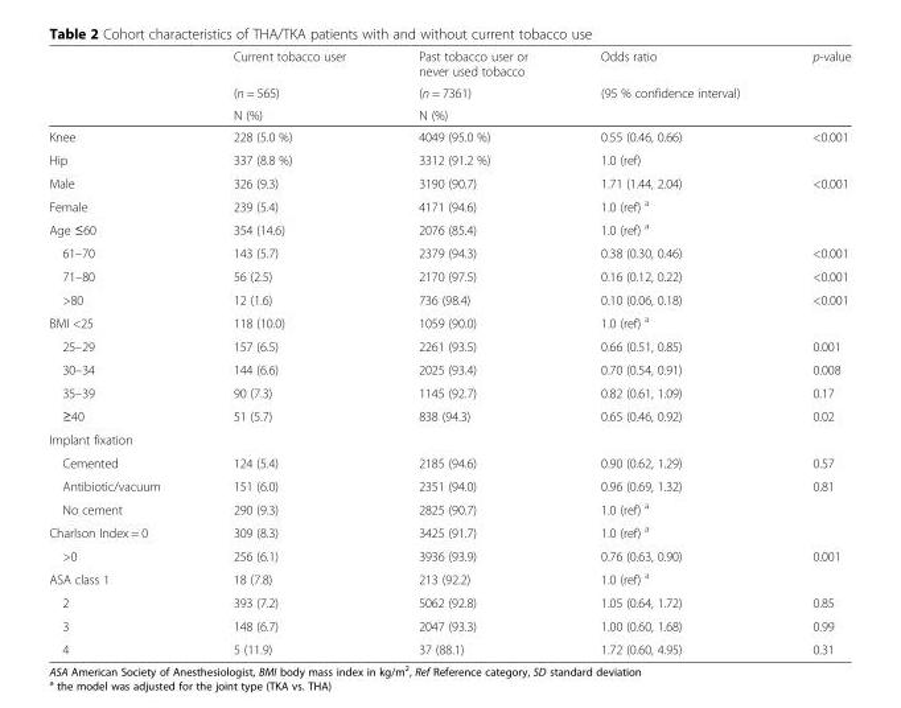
<table><thead><tr><td rowspan="3"></td><td rowspan="3">Current tobacco user (n = 565) N (%)</td><td rowspan="3">Past tobacco user or never used tobacco (n = 7361) N (%)</td><td rowspan="3">Odds ratio (95 % confidence interval)</td><td rowspan="3">p-value</td></tr><tr></tr><tr></tr></thead><tbody><tr><td>Knee</td><td>228 (5.0 %)</td><td>4049 (95.0 %)</td><td>0.55 (0.46, 0.66)</td><td>&lt;0.001</td></tr><tr><td>Hip</td><td>337 (8.8 %)</td><td>3312 (91.2 %)</td><td>1.0 (ref)</td><td></td></tr><tr><td>Male</td><td>326 (9.3)</td><td>3190 (90.7)</td><td>1.71 (1.44, 2.04)</td><td>&lt;0.001</td></tr><tr><td>Female</td><td>239 (5.4)</td><td>4171 (94.6)</td><td>1.0 (ref) <sup>a</sup></td><td></td></tr><tr><td>Age ≤60</td><td>354 (14.6)</td><td>2076 (85.4)</td><td>1.0 (ref) <sup>a</sup></td><td></td></tr><tr><td>61–70</td><td>143 (5.7)</td><td>2379 (94.3)</td><td>0.38 (0.30, 0.46)</td><td>&lt;0.001</td></tr><tr><td>71–80</td><td>56 (2.5)</td><td>2170 (97.5)</td><td>0.16 (0.12, 0.22)</td><td>&lt;0.001</td></tr><tr><td>&gt;80</td><td>12 (1.6)</td><td>736 (98.4)</td><td>0.10 (0.06, 0.18)</td><td>&lt;0.001</td></tr><tr><td>BMI &lt;25</td><td>118 (10.0)</td><td>1059 (90.0)</td><td>1.0 (ref) <sup>a</sup></td><td></td></tr><tr><td>25–29</td><td>157 (6.5)</td><td>2261 (93.5)</td><td>0.66 (0.51, 0.85)</td><td>0.001</td></tr><tr><td>30–34</td><td>144 (6.6)</td><td>2025 (93.4)</td><td>0.70 (0.54, 0.91)</td><td>0.008</td></tr><tr><td>35–39</td><td>90 (7.3)</td><td>1145 (92.7)</td><td>0.82 (0.61, 1.09)</td><td>0.17</td></tr><tr><td>≥40</td><td>51 (5.7)</td><td>838 (94.3)</td><td>0.65 (0.46, 0.92)</td><td>0.02</td></tr><tr><td colspan="5">Implant fixation</td></tr><tr><td>Cemented</td><td>124 (5.4)</td><td>2185 (94.6)</td><td>0.90 (0.62, 1.29)</td><td>0.57</td></tr><tr><td>Antibiotic/vacuum</td><td>151 (6.0)</td><td>2351 (94.0)</td><td>0.96 (0.69, 1.32)</td><td>0.81</td></tr><tr><td>No cement</td><td>290 (9.3)</td><td>2825 (90.7)</td><td>1.0 (ref) <sup>a</sup></td><td></td></tr><tr><td>Charlson Index = 0</td><td>309 (8.3)</td><td>3425 (91.7)</td><td>1.0 (ref) <sup>a</sup></td><td></td></tr><tr><td>&gt;0</td><td>256 (6.1)</td><td>3936 (93.9)</td><td>0.76 (0.63, 0.90)</td><td>0.001</td></tr><tr><td>ASA class 1</td><td>18 (7.8)</td><td>213 (92.2)</td><td>1.0 (ref) <sup>a</sup></td><td></td></tr><tr><td>2</td><td>393 (7.2)</td><td>5062 (92.8)</td><td>1.05 (0.64, 1.72)</td><td>0.85</td></tr><tr><td>3</td><td>148 (6.7)</td><td>2047 (93.3)</td><td>1.00 (0.60, 1.68)</td><td>0.99</td></tr><tr><td>4</td><td>5 (11.9)</td><td>37 (88.1)</td><td>1.72 (0.60, 4.95)</td><td>0.31</td></tr></tbody></table>